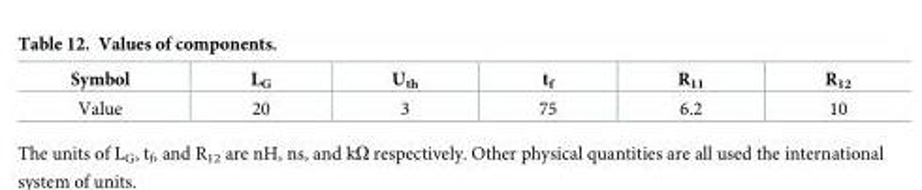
<table><thead><tr><td>Symbol</td><td>L<sub>G</sub></td><td>U<sub>th</sub></td><td>t<sub>f</sub></td><td>R<sub>11</sub></td><td>R<sub>12</sub></td></tr></thead><tbody><tr><td>Value</td><td>20</td><td>3</td><td>75</td><td>6.2</td><td>10</td></tr></tbody></table>